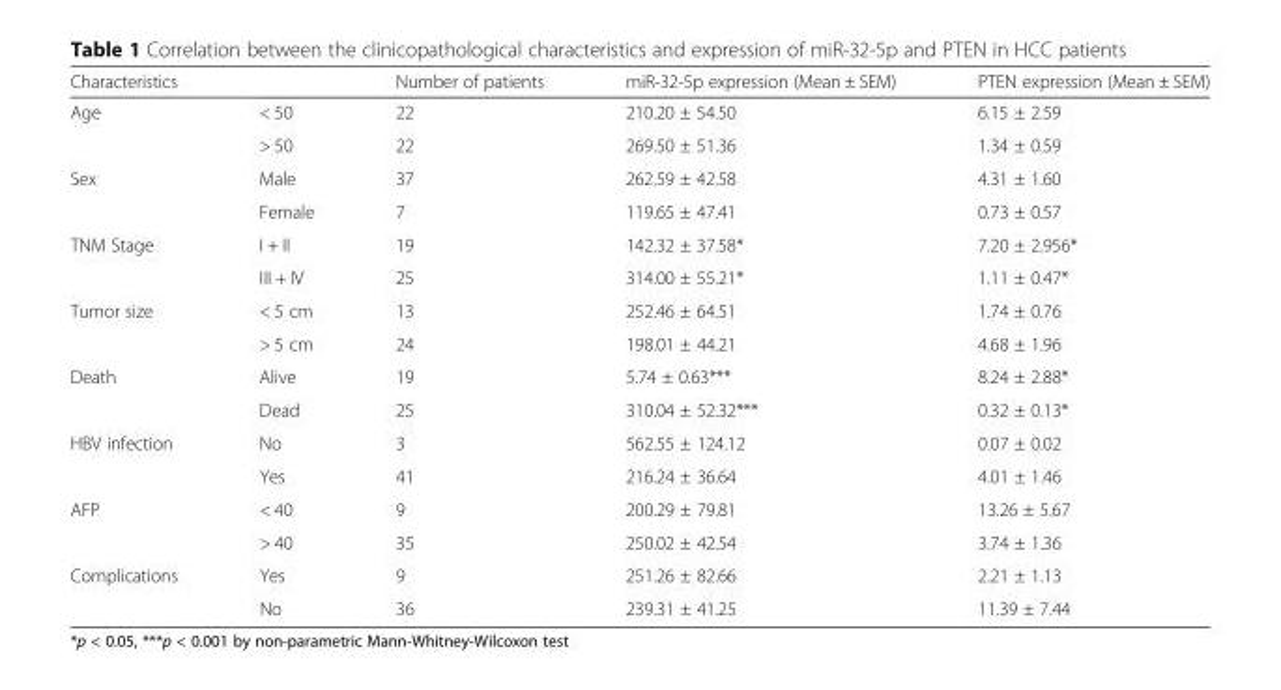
<table><thead><tr><td>Characteristics</td><td></td><td>Number of patients</td><td>miR-32-5p expression (Mean ± SEM)</td><td>PTEN expression (Mean ± SEM)</td></tr></thead><tbody><tr><td rowspan="2">Age</td><td>&lt; 50</td><td>22</td><td>210.20 ± 54.50</td><td>6.15 ± 2.59</td></tr><tr><td>&gt; 50</td><td>22</td><td>269.50 ± 51.36</td><td>1.34 ± 0.59</td></tr><tr><td rowspan="2">Sex</td><td>Male</td><td>37</td><td>262.59 ± 42.58</td><td>4.31 ± 1.60</td></tr><tr><td>Female</td><td>7</td><td>119.65 ± 47.41</td><td>0.73 ± 0.57</td></tr><tr><td rowspan="2">TNM Stage</td><td>I + II</td><td>19</td><td>142.32 ± 37.58*</td><td>7.20 ± 2.956*</td></tr><tr><td>III + IV</td><td>25</td><td>314.00 ± 55.21*</td><td>1.11 ± 0.47*</td></tr><tr><td rowspan="2">Tumor size</td><td>&lt; 5 cm</td><td>13</td><td>252.46 ± 64.51</td><td>1.74 ± 0.76</td></tr><tr><td>&gt; 5 cm</td><td>24</td><td>198.01 ± 44.21</td><td>4.68 ± 1.96</td></tr><tr><td rowspan="2">Death</td><td>Alive</td><td>19</td><td>5.74 ± 0.63***</td><td>8.24 ± 2.88*</td></tr><tr><td>Dead</td><td>25</td><td>310.04 ± 52.32***</td><td>0.32 ± 0.13*</td></tr><tr><td rowspan="2">HBV infection</td><td>No</td><td>3</td><td>562.55 ± 124.12</td><td>0.07 ± 0.02</td></tr><tr><td>Yes</td><td>41</td><td>216.24 ± 36.64</td><td>4.01 ± 1.46</td></tr><tr><td rowspan="2">AFP</td><td>&lt; 40</td><td>9</td><td>200.29 ± 79.81</td><td>13.26 ± 5.67</td></tr><tr><td>&gt; 40</td><td>35</td><td>250.02 ± 42.54</td><td>3.74 ± 1.36</td></tr><tr><td rowspan="2">Complications</td><td>Yes</td><td>9</td><td>251.26 ± 82.66</td><td>2.21 ± 1.13</td></tr><tr><td>No</td><td>36</td><td>239.31 ± 41.25</td><td>11.39 ± 7.44</td></tr></tbody></table>